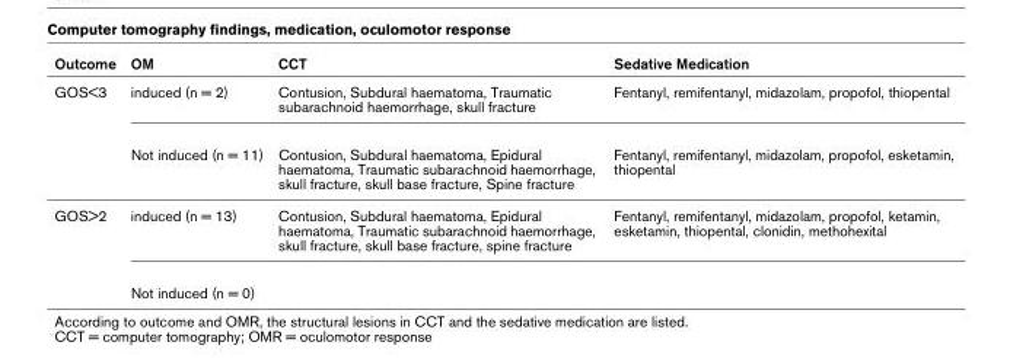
<table><thead><tr><td>Outcome</td><td>OM</td><td>CCT</td><td>Sedative Medication</td></tr></thead><tbody><tr><td rowspan="2">GOS&lt;3</td><td>induced (n = 2)</td><td>Contusion, Subdural haematoma, Traumatic subarachnoid haemorrhage, skull fracture</td><td>Fentanyl, remifentanyl, midazolam, propofol, thiopental</td></tr><tr><td>Not induced (n = 11)</td><td>Contusion, Subdural haematoma, Epidural haematoma, Traumatic subarachnoid haemorrhage, skull fracture, skull base fracture, Spine fracture</td><td>Fentanyl, remifentanyl, midazolam, propofol, esketamin, thiopental</td></tr><tr><td rowspan="2">GOS&gt;2</td><td>induced (n = 13)</td><td>Contusion, Subdural haematoma, Epidural haematoma, Traumatic subarachnoid haemorrhage, skull fracture, skull base fracture, spine fracture</td><td>Fentanyl, remifentanyl, midazolam, propofol, ketamin, esketamin, thiopental, clonidin, methohexital</td></tr><tr><td>Not induced (n = 0)</td><td></td><td></td></tr></tbody></table>